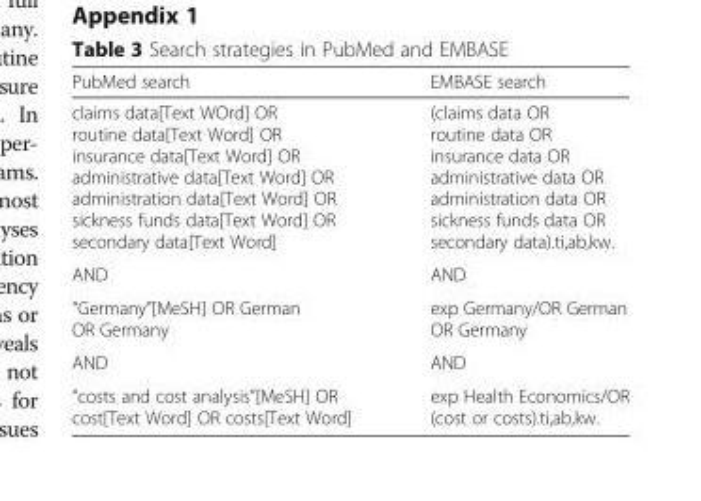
<table><thead><tr><td>PubMed search</td><td>EMBASE search</td></tr></thead><tbody><tr><td>claims data[Text WOrd] OR routine data[Text Word] OR insurance data[Text Word] OR administrative data[Text Word] OR administration data[Text Word] OR sickness funds data[Text Word] OR secondary data[Text Word]</td><td>(claims data OR routine data OR insurance data OR administrative data OR administration data OR sickness funds data OR secondary data).ti,ab,kw.</td></tr><tr><td>AND</td><td>AND</td></tr><tr><td>“Germany”[MeSH] OR German OR Germany</td><td>exp Germany/OR German OR Germany</td></tr><tr><td>AND</td><td>AND</td></tr><tr><td>“costs and cost analysis”[MeSH] OR cost[Text Word] OR costs[Text Word]</td><td>exp Health Economics/OR (cost or costs).ti,ab,kw.</td></tr></tbody></table>